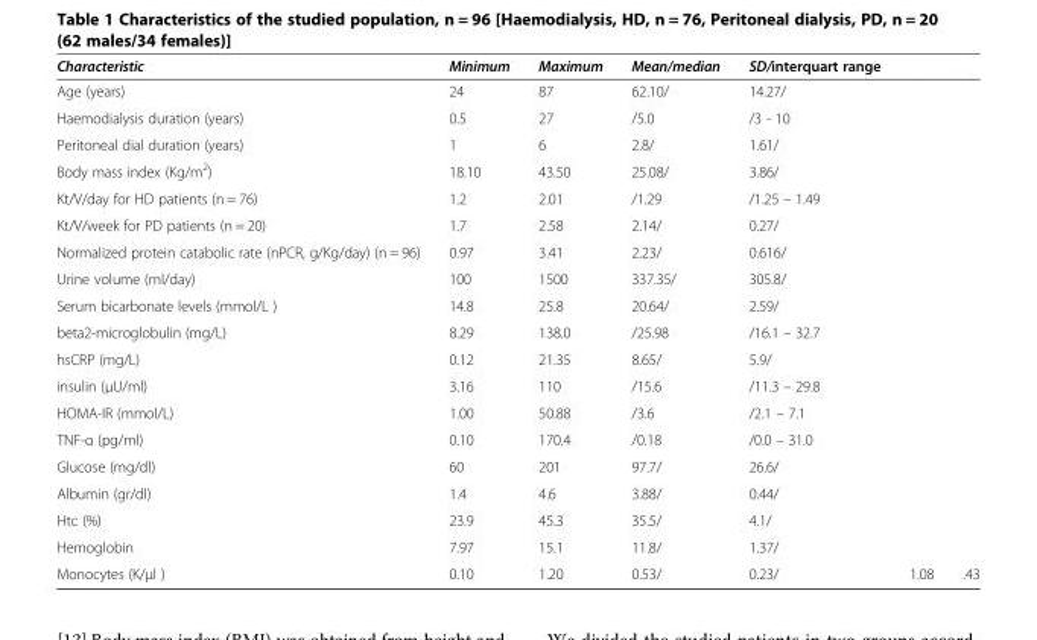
<table><thead><tr><td>Characteristic</td><td>Minimum</td><td>Maximum</td><td>Mean/median</td><td>SD/interquart range</td><td></td><td></td></tr></thead><tbody><tr><td>Age (years)</td><td>24</td><td>87</td><td>62.10/</td><td>14.27/</td><td></td><td></td></tr><tr><td>Haemodialysis duration (years)</td><td>0.5</td><td>27</td><td>/5.0</td><td>/3 - 10</td><td></td><td></td></tr><tr><td>Peritoneal dial duration (years)</td><td>1</td><td>6</td><td>2.8/</td><td>1.61/</td><td></td><td></td></tr><tr><td>Body mass index (Kg/m<sup>2</sup>)</td><td>18.10</td><td>43.50</td><td>25.08/</td><td>3.86/</td><td></td><td></td></tr><tr><td>Kt/V/day for HD patients (n = 76)</td><td>1.2</td><td>2.01</td><td>/1.29</td><td>/1.25 – 1.49</td><td></td><td></td></tr><tr><td>Kt/V/week for PD patients (n = 20)</td><td>1.7</td><td>2.58</td><td>2.14/</td><td>0.27/</td><td></td><td></td></tr><tr><td>Normalized protein catabolic rate (nPCR, g/Kg/day) (n = 96)</td><td>0.97</td><td>3.41</td><td>2.23/</td><td>0.616/</td><td></td><td></td></tr><tr><td>Urine volume (ml/day)</td><td>100</td><td>1500</td><td>337.35/</td><td>305.8/</td><td></td><td></td></tr><tr><td>Serum bicarbonate levels (mmol/L )</td><td>14.8</td><td>25.8</td><td>20.64/</td><td>2.59/</td><td></td><td></td></tr><tr><td>beta2-microglobulin (mg/L)</td><td>8.29</td><td>138.0</td><td>/25.98</td><td>/16.1 – 32.7</td><td></td><td></td></tr><tr><td>hsCRP (mg/L)</td><td>0.12</td><td>21.35</td><td>8.65/</td><td>5.9/</td><td></td><td></td></tr><tr><td>insulin (μU/ml)</td><td>3.16</td><td>110</td><td>/15.6</td><td>/11.3 – 29.8</td><td></td><td></td></tr><tr><td>ΗΟΜΑ-ΙR (mmol/L)</td><td>1.00</td><td>50.88</td><td>/3.6</td><td>/2.1 – 7.1</td><td></td><td></td></tr><tr><td>TNF-α (pg/ml)</td><td>0.10</td><td>170.4</td><td>/0.18</td><td>/0.0 – 31.0</td><td></td><td></td></tr><tr><td>Glucose (mg/dl)</td><td>60</td><td>201</td><td>97.7/</td><td>26.6/</td><td></td><td></td></tr><tr><td>Albumin (gr/dl)</td><td>1.4</td><td>4.6</td><td>3.88/</td><td>0.44/</td><td></td><td></td></tr><tr><td>Htc (%)</td><td>23.9</td><td>45.3</td><td>35.5/</td><td>4.1/</td><td></td><td></td></tr><tr><td>Hemoglobin</td><td>7.97</td><td>15.1</td><td>11.8/</td><td>1.37/</td><td></td><td></td></tr><tr><td>Monocytes (K/μl )</td><td>0.10</td><td>1.20</td><td>0.53/</td><td>0.23/</td><td>1.08</td><td>.43</td></tr></tbody></table>